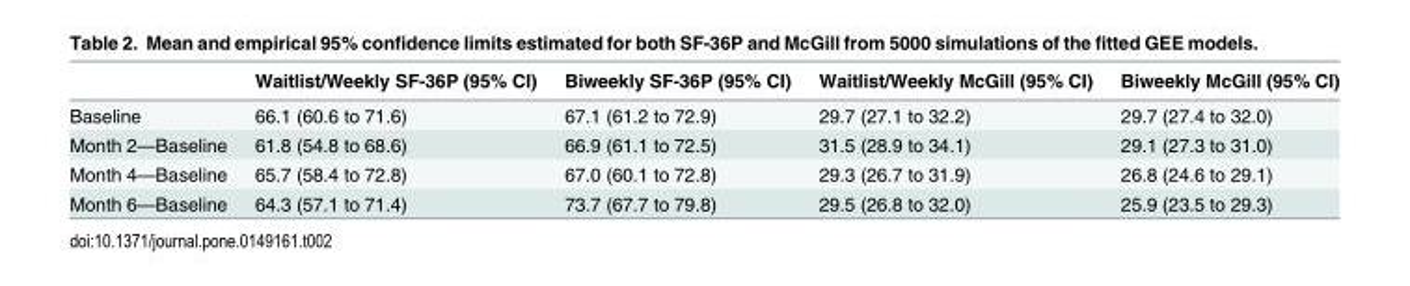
<table><thead><tr><td></td><td>Waitlist/Weekly SF-36P (95% CI)</td><td>Biweekly SF-36P (95% CI)</td><td>Waitlist/Weekly McGill (95% CI)</td><td>Biweekly McGill (95% CI)</td></tr></thead><tbody><tr><td>Baseline</td><td>66.1 (60.6 to 71.6)</td><td>67.1 (61.2 to 72.9)</td><td>29.7 (27.1 to 32.2)</td><td>29.7 (27.4 to 32.0)</td></tr><tr><td>Month 2—Baseline</td><td>61.8 (54.8 to 68.6)</td><td>66.9 (61.1 to 72.5)</td><td>31.5 (28.9 to 34.1)</td><td>29.1 (27.3 to 31.0)</td></tr><tr><td>Month 4—Baseline</td><td>65.7 (58.4 to 72.8)</td><td>67.0 (60.1 to 72.8)</td><td>29.3 (26.7 to 31.9)</td><td>26.8 (24.6 to 29.1)</td></tr><tr><td>Month 6—Baseline</td><td>64.3 (57.1 to 71.4)</td><td>73.7 (67.7 to 79.8)</td><td>29.5 (26.8 to 32.0)</td><td>25.9 (23.5 to 29.3)</td></tr></tbody></table>